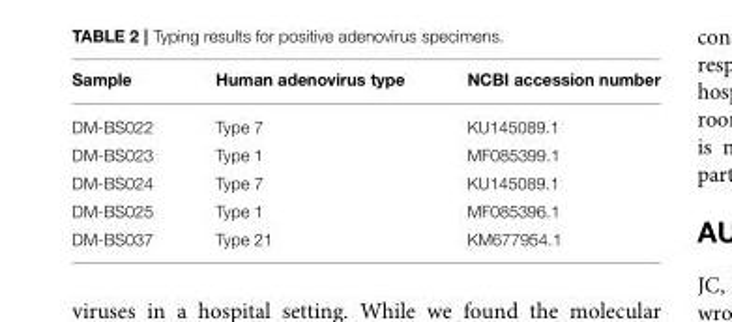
<table><thead><tr><td>Sample</td><td>Human adenovirus type</td><td>NCBI accession number</td></tr></thead><tbody><tr><td>DM-BS022</td><td>Type 7</td><td>KU145089.1</td></tr><tr><td>DM-BS023</td><td>Type 1</td><td>MF085399.1</td></tr><tr><td>DM-BS024</td><td>Type 7</td><td>KU145089.1</td></tr><tr><td>DM-BS025</td><td>Type 1</td><td>MF085396.1</td></tr><tr><td>DM-BS037</td><td>Type 21</td><td>KM677954.1</td></tr></tbody></table>